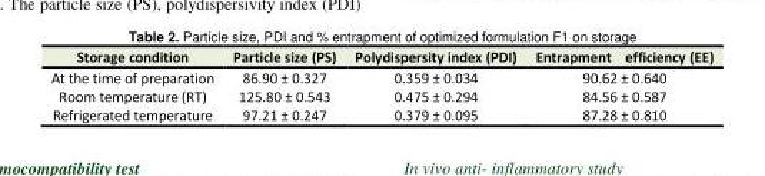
<table><tbody><tr><td>Storage condition</td><td>Particle size (PS)</td><td>Polydispersity index (PDI)</td><td>Entrapment efficiency (EE)</td></tr><tr><td>At the time of preparation</td><td>86.90 ± 0.327</td><td>0.359 ± 0.034</td><td>90.62 ± 0.640</td></tr><tr><td>Room temperature (RT)</td><td>125.80 ± 0.543</td><td>0.475 ± 0.294</td><td>84.56 ± 0.587</td></tr><tr><td>Refrigerated temperature</td><td>97.21 ± 0.247</td><td>0.379 ± 0.095</td><td>87.28 ± 0.810</td></tr></tbody></table>